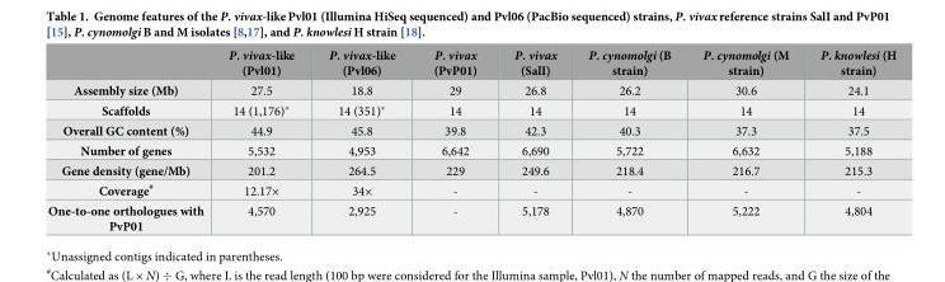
<table><thead><tr><td></td><td>P. vivax-like (Pvl01)</td><td>P. vivax-like (Pvl06)</td><td>P. vivax (PvP01)</td><td>P. vivax (SalI)</td><td>P. cynomolgi (B strain)</td><td>P. cynomolgi (M strain)</td><td>P. knowlesi (H strain)</td></tr></thead><tbody><tr><td>Assembly size (Mb)</td><td>27.5</td><td>18.8</td><td>29</td><td>26.8</td><td>26.2</td><td>30.6</td><td>24.1</td></tr><tr><td>Scaffolds</td><td>14 (1,176)*</td><td>14 (351)*</td><td>14</td><td>14</td><td>14</td><td>14</td><td>14</td></tr><tr><td>Overall GC content (%)</td><td>44.9</td><td>45.8</td><td>39.8</td><td>42.3</td><td>40.3</td><td>37.3</td><td>37.5</td></tr><tr><td>Number of genes</td><td>5,532</td><td>4,953</td><td>6,642</td><td>6,690</td><td>5,722</td><td>6,632</td><td>5,188</td></tr><tr><td>Gene density (gene/Mb)</td><td>201.2</td><td>264.5</td><td>229</td><td>249.6</td><td>218.4</td><td>216.7</td><td>215.3</td></tr><tr><td>Coverage<sup>#</sup></td><td>12.17×</td><td>34×</td><td>-</td><td>-</td><td>-</td><td>-</td><td>-</td></tr><tr><td>One-to-one orthologues with PvP01</td><td>4,570</td><td>2,925</td><td>-</td><td>5,178</td><td>4,870</td><td>5,222</td><td>4,804</td></tr></tbody></table>